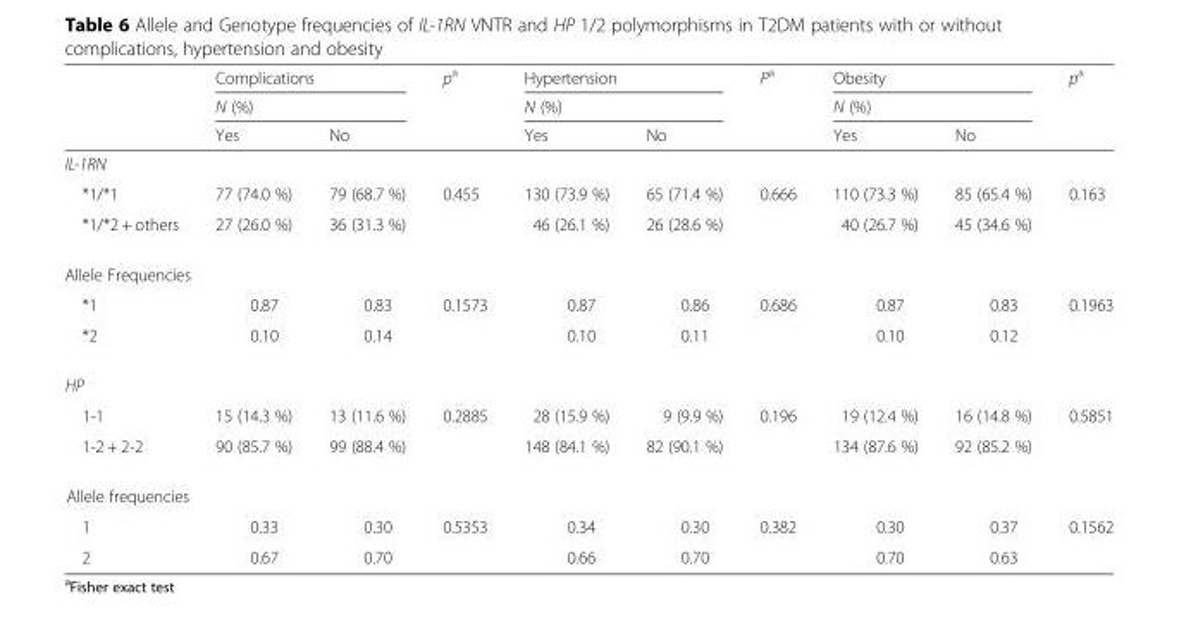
<table><thead><tr><td rowspan="3"></td><td rowspan="2" colspan="2">Complications N (%)</td><td rowspan="3">pa</td><td rowspan="2" colspan="2">Hypertension N (%)</td><td rowspan="3">Pa</td><td rowspan="2" colspan="2">Obesity N (%)</td><td rowspan="3">pa</td></tr><tr></tr><tr><td>Yes</td><td>No</td><td>Yes</td><td>No</td><td>Yes</td><td>No</td></tr></thead><tbody><tr><td colspan="10">IL-1RN</td></tr><tr><td>*1/*1</td><td>77 (74.0 %)</td><td>79 (68.7 %)</td><td rowspan="2">0.455</td><td>130 (73.9 %)</td><td>65 (71.4 %)</td><td rowspan="2">0.666</td><td>110 (73.3 %)</td><td>85 (65.4 %)</td><td rowspan="2">0.163</td></tr><tr><td>*1/*2 + others</td><td>27 (26.0 %)</td><td>36 (31.3 %)</td><td>46 (26.1 %)</td><td>26 (28.6 %)</td><td>40 (26.7 %)</td><td>45 (34.6 %)</td></tr><tr><td colspan="10">Allele Frequencies</td></tr><tr><td>*1</td><td>0.87</td><td>0.83</td><td rowspan="2">0.1573</td><td>0.87</td><td>0.86</td><td rowspan="2">0.686</td><td>0.87</td><td>0.83</td><td rowspan="2">0.1963</td></tr><tr><td>*2</td><td>0.10</td><td>0.14</td><td>0.10</td><td>0.11</td><td>0.10</td><td>0.12</td></tr><tr><td colspan="10">HP</td></tr><tr><td>1-1</td><td>15 (14.3 %)</td><td>13 (11.6 %)</td><td rowspan="2">0.2885</td><td>28 (15.9 %)</td><td>9 (9.9 %)</td><td rowspan="2">0.196</td><td>19 (12.4 %)</td><td>16 (14.8 %)</td><td rowspan="2">0.5851</td></tr><tr><td>1-2 + 2-2</td><td>90 (85.7 %)</td><td>99 (88.4 %)</td><td>148 (84.1 %)</td><td>82 (90.1 %)</td><td>134 (87.6 %)</td><td>92 (85.2 %)</td></tr><tr><td colspan="10">Allele frequencies</td></tr><tr><td>1</td><td>0.33</td><td>0.30</td><td rowspan="2">0.5353</td><td>0.34</td><td>0.30</td><td rowspan="2">0.382</td><td>0.30</td><td>0.37</td><td rowspan="2">0.1562</td></tr><tr><td>2</td><td>0.67</td><td>0.70</td><td>0.66</td><td>0.70</td><td>0.70</td><td>0.63</td></tr></tbody></table>